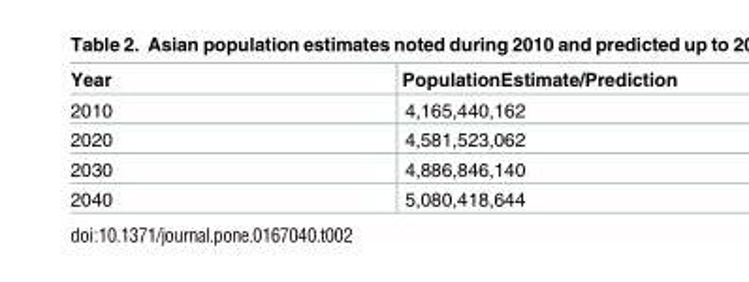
<table><thead><tr><td>Year</td><td>PopulationEstimate/Prediction</td></tr></thead><tbody><tr><td>2010</td><td>4,165,440,162</td></tr><tr><td>2020</td><td>4,581,523,062</td></tr><tr><td>2030</td><td>4,886,846,140</td></tr><tr><td>2040</td><td>5,080,418,644</td></tr></tbody></table>